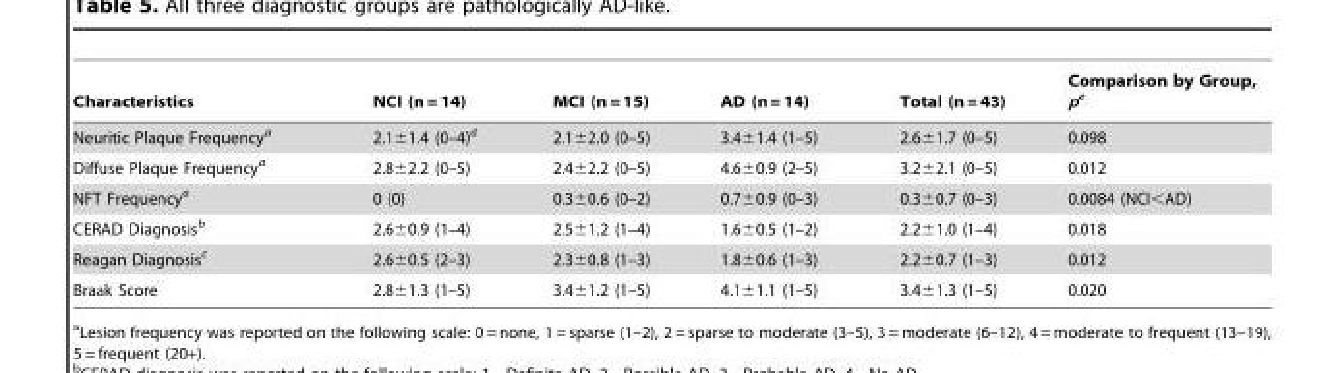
<table><thead><tr><td>Characteristics</td><td>NCI (n = 14)</td><td>MCI (n = 15)</td><td>AD (n = 14)</td><td>Total (n = 43)</td><td>Comparison by Group, pe</td></tr></thead><tbody><tr><td>Neuritic Plaque Frequency<sup>a</sup></td><td>2.1±1.4 (0–4)<sup>d</sup></td><td>2.1±2.0 (0–5)</td><td>3.4±1.4 (1–5)</td><td>2.6±1.7 (0–5)</td><td>0.098</td></tr><tr><td>Diffuse Plaque Frequency<sup>a</sup></td><td>2.8±2.2 (0–5)</td><td>2.4±2.2 (0–5)</td><td>4.6±0.9 (2–5)</td><td>3.2±2.1 (0–5)</td><td>0.012</td></tr><tr><td>NFT Frequency<sup>a</sup></td><td>0 (0)</td><td>0.3±0.6 (0–2)</td><td>0.7±0.9 (0–3)</td><td>0.3±0.7 (0–3)</td><td>0.0084 (NCI&lt;AD)</td></tr><tr><td>CERAD Diagnosis<sup>b</sup></td><td>2.6±0.9 (1–4)</td><td>2.5±1.2 (1–4)</td><td>1.6±0.5 (1–2)</td><td>2.2±1.0 (1–4)</td><td>0.018</td></tr><tr><td>Reagan Diagnosis<sup>c</sup></td><td>2.6±0.5 (2–3)</td><td>2.3±0.8 (1–3)</td><td>1.8±0.6 (1–3)</td><td>2.2±0.7 (1–3)</td><td>0.012</td></tr><tr><td>Braak Score</td><td>2.8±1.3 (1–5)</td><td>3.4±1.2 (1–5)</td><td>4.1±1.1 (1–5)</td><td>3.4±1.3 (1–5)</td><td>0.020</td></tr></tbody></table>